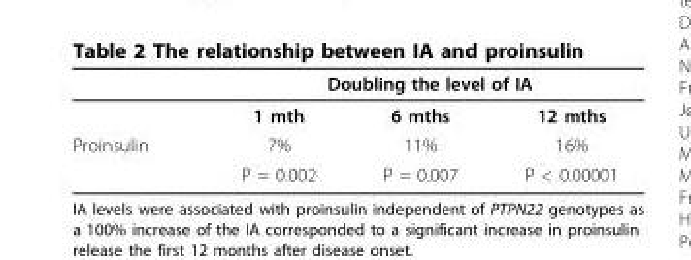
<table><thead><tr><td rowspan="2"></td><td colspan="3">Doubling the level of IA</td></tr><tr><td>1 mth</td><td>6 mths</td><td>12 mths</td></tr></thead><tbody><tr><td rowspan="2">Proinsulin</td><td>7%</td><td>11%</td><td>16%</td></tr><tr><td>P = 0.002</td><td>P = 0.007</td><td>P &lt; 0.00001</td></tr></tbody></table>